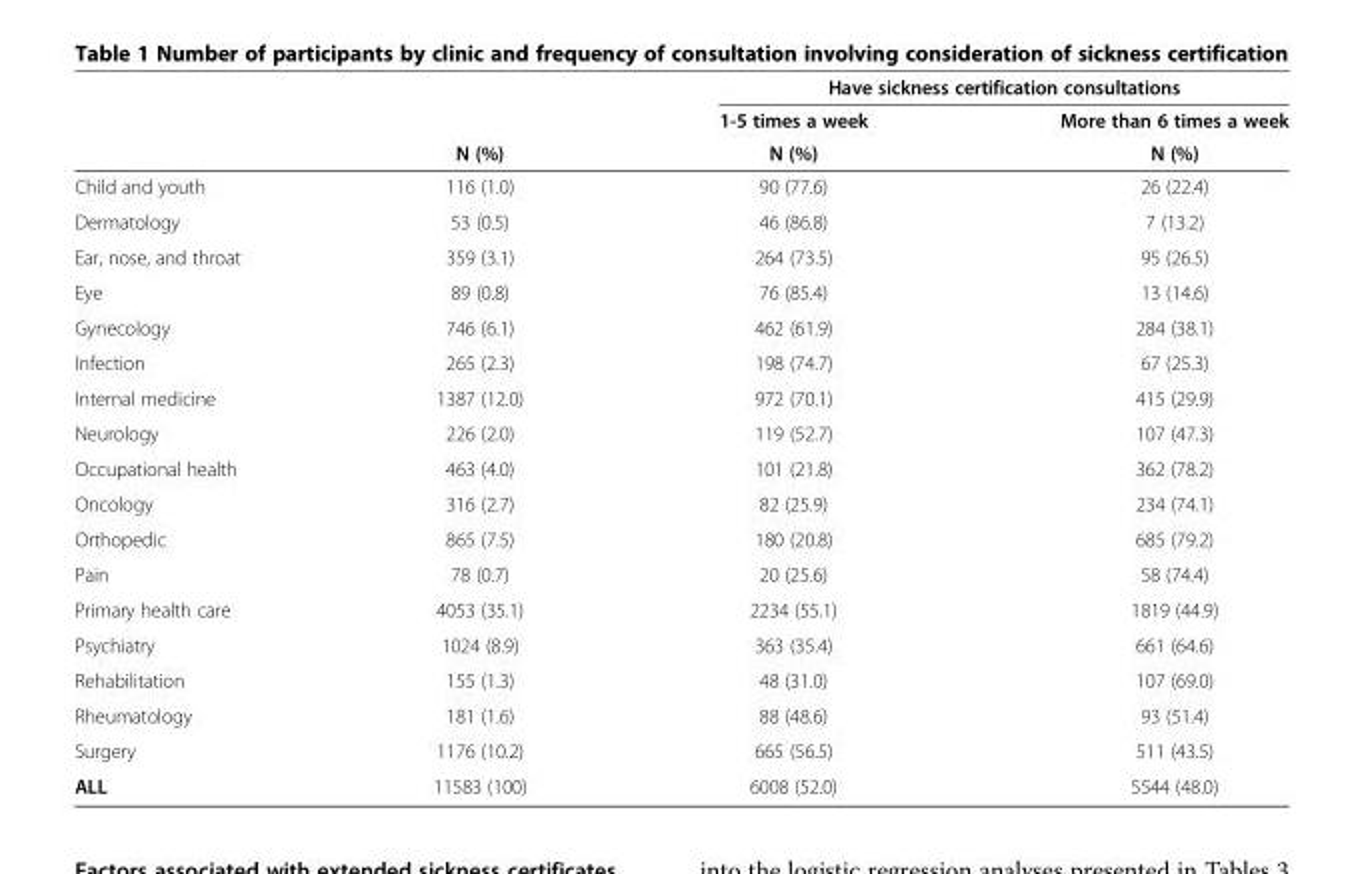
<table><thead><tr><td rowspan="3"></td><td rowspan="3">N (%)</td><td colspan="2">Have sickness certification consultations</td></tr><tr><td rowspan="2">1-5 times a week N (%)</td><td rowspan="2">More than 6 times a week N (%)</td></tr><tr></tr></thead><tbody><tr><td>Child and youth</td><td>116 (1.0)</td><td>90 (77.6)</td><td>26 (22.4)</td></tr><tr><td>Dermatology</td><td>53 (0.5)</td><td>46 (86.8)</td><td>7 (13.2)</td></tr><tr><td>Ear, nose, and throat</td><td>359 (3.1)</td><td>264 (73.5)</td><td>95 (26.5)</td></tr><tr><td>Eye</td><td>89 (0.8)</td><td>76 (85.4)</td><td>13 (14.6)</td></tr><tr><td>Gynecology</td><td>746 (6.1)</td><td>462 (61.9)</td><td>284 (38.1)</td></tr><tr><td>Infection</td><td>265 (2.3)</td><td>198 (74.7)</td><td>67 (25.3)</td></tr><tr><td>Internal medicine</td><td>1387 (12.0)</td><td>972 (70.1)</td><td>415 (29.9)</td></tr><tr><td>Neurology</td><td>226 (2.0)</td><td>119 (52.7)</td><td>107 (47.3)</td></tr><tr><td>Occupational health</td><td>463 (4.0)</td><td>101 (21.8)</td><td>362 (78.2)</td></tr><tr><td>Oncology</td><td>316 (2.7)</td><td>82 (25.9)</td><td>234 (74.1)</td></tr><tr><td>Orthopedic</td><td>865 (7.5)</td><td>180 (20.8)</td><td>685 (79.2)</td></tr><tr><td>Pain</td><td>78 (0.7)</td><td>20 (25.6)</td><td>58 (74.4)</td></tr><tr><td>Primary health care</td><td>4053 (35.1)</td><td>2234 (55.1)</td><td>1819 (44.9)</td></tr><tr><td>Psychiatry</td><td>1024 (8.9)</td><td>363 (35.4)</td><td>661 (64.6)</td></tr><tr><td>Rehabilitation</td><td>155 (1.3)</td><td>48 (31.0)</td><td>107 (69.0)</td></tr><tr><td>Rheumatology</td><td>181 (1.6)</td><td>88 (48.6)</td><td>93 (51.4)</td></tr><tr><td>Surgery</td><td>1176 (10.2)</td><td>665 (56.5)</td><td>511 (43.5)</td></tr><tr><td>ALL</td><td>11583 (100)</td><td>6008 (52.0)</td><td>5544 (48.0)</td></tr></tbody></table>